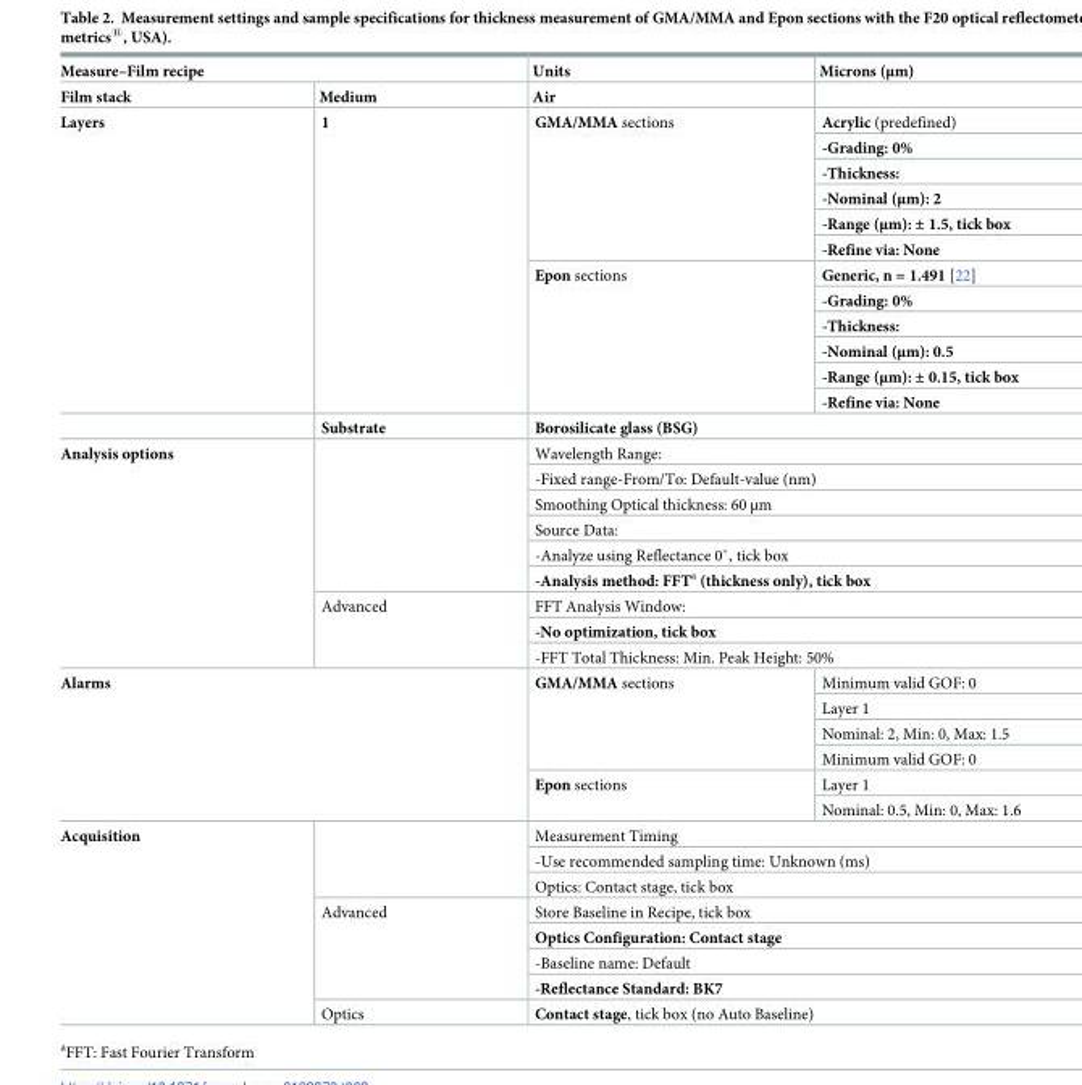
<table><thead><tr><td colspan="2">Measure–Film recipe</td><td rowspan="2">Units Air</td><td rowspan="2">Microns (μm)</td></tr><tr><td>Film stack</td><td>Medium</td></tr></thead><tbody><tr><td rowspan="13">Layers</td><td rowspan="12">1</td><td rowspan="6">GMA/MMA sections</td><td>Acrylic (predefined)</td></tr><tr><td>-Grading: 0%</td></tr><tr><td>-Thickness:</td></tr><tr><td>-Nominal (μm): 2</td></tr><tr><td>-Range (μm): ± 1.5, tick box</td></tr><tr><td>-Refine via: None</td></tr><tr><td rowspan="6">Epon sections</td><td>Generic, n = 1.491 [22]</td></tr><tr><td>-Grading: 0%</td></tr><tr><td>-Thickness:</td></tr><tr><td>-Nominal (μm): 0.5</td></tr><tr><td>-Range (μm): ± 0.15, tick box</td></tr><tr><td>-Refine via: None</td></tr><tr><td>Substrate</td><td colspan="2">Borosilicate glass (BSG)</td></tr><tr><td rowspan="9">Analysis options</td><td rowspan="6"></td><td colspan="2">Wavelength Range:</td></tr><tr><td colspan="2">-Fixed range-From/To: Default-value (nm)</td></tr><tr><td colspan="2">Smoothing Optical thickness: 60 μm</td></tr><tr><td colspan="2">Source Data:</td></tr><tr><td colspan="2">-Analyze using Reflectance 0˚, tick box</td></tr><tr><td colspan="2">-Analysis method: FFT<sup>a</sup> (thickness only), tick box</td></tr><tr><td rowspan="3">Advanced</td><td colspan="2">FFT Analysis Window:</td></tr><tr><td colspan="2">-No optimization, tick box</td></tr><tr><td colspan="2">-FFT Total Thickness: Min. Peak Height: 50%</td></tr><tr><td rowspan="6" colspan="2">Alarms</td><td rowspan="4">GMA/MMA sections</td><td>Minimum valid GOF: 0</td></tr><tr><td>Layer 1</td></tr><tr><td>Nominal: 2, Min: 0, Max: 1.5</td></tr><tr><td>Minimum valid GOF: 0</td></tr><tr><td rowspan="2">Epon sections</td><td>Layer 1</td></tr><tr><td>Nominal: 0.5, Min: 0, Max: 1.6</td></tr><tr><td rowspan="8">Acquisition</td><td rowspan="3"></td><td colspan="2">Measurement Timing</td></tr><tr><td colspan="2">-Use recommended sampling time: Unknown (ms)</td></tr><tr><td colspan="2">Optics: Contact stage, tick box</td></tr><tr><td rowspan="4">Advanced</td><td colspan="2">Store Baseline in Recipe, tick box</td></tr><tr><td colspan="2">Optics Configuration: Contact stage</td></tr><tr><td colspan="2">-Baseline name: Default</td></tr><tr><td colspan="2">-Reflectance Standard: BK7</td></tr><tr><td>Optics</td><td colspan="2">Contact stage, tick box (no Auto Baseline)</td></tr></tbody></table>